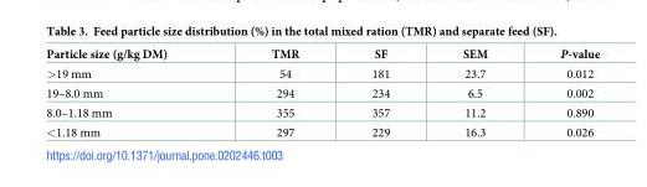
<table><thead><tr><td>Particle size (g/kg DM)</td><td>TMR</td><td>SF</td><td>SEM</td><td>P-value</td></tr></thead><tbody><tr><td>&gt;19 mm</td><td>54</td><td>181</td><td>23.7</td><td>0.012</td></tr><tr><td>19–8.0 mm</td><td>294</td><td>234</td><td>6.5</td><td>0.002</td></tr><tr><td>8.0–1.18 mm</td><td>355</td><td>357</td><td>11.2</td><td>0.890</td></tr><tr><td>&lt;1.18 mm</td><td>297</td><td>229</td><td>16.3</td><td>0.026</td></tr></tbody></table>